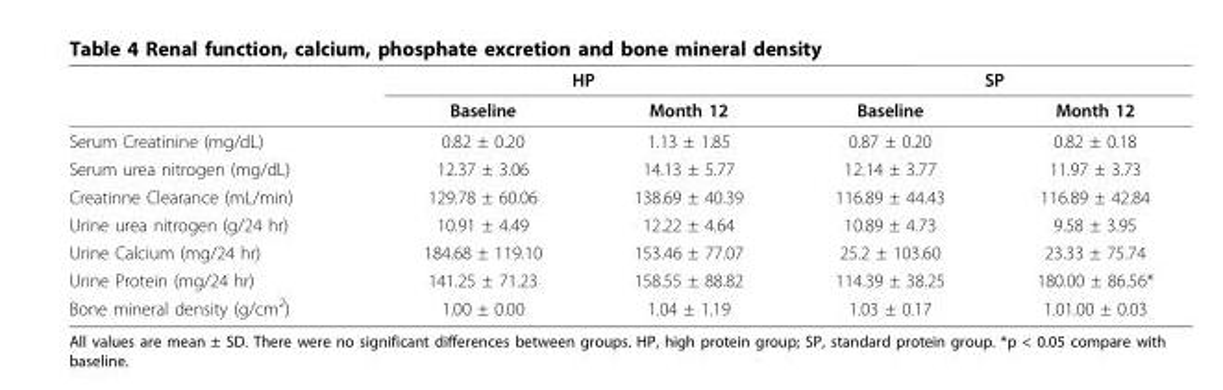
<table><thead><tr><td rowspan="2"></td><td colspan="2">HP</td><td colspan="2">SP</td></tr><tr><td>Baseline</td><td>Month 12</td><td>Baseline</td><td>Month 12</td></tr></thead><tbody><tr><td>Serum Creatinine (mg/dL)</td><td>0.82 ± 0.20</td><td>1.13 ± 1.85</td><td>0.87 ± 0.20</td><td>0.82 ± 0.18</td></tr><tr><td>Serum urea nitrogen (mg/dL)</td><td>12.37 ± 3.06</td><td>14.13 ± 5.77</td><td>12.14 ± 3.77</td><td>11.97 ± 3.73</td></tr><tr><td>Creatinne Clearance (mL/min)</td><td>129.78 ± 60.06</td><td>138.69 ± 40.39</td><td>116.89 ± 44.43</td><td>116.89 ± 42.84</td></tr><tr><td>Urine urea nitrogen (g/24 hr)</td><td>10.91 ± 4.49</td><td>12.22 ± 4.64</td><td>10.89 ± 4.73</td><td>9.58 ± 3.95</td></tr><tr><td>Urine Calcium (mg/24 hr)</td><td>184.68 ± 119.10</td><td>153.46 ± 77.07</td><td>25.2 ± 103.60</td><td>23.33 ± 75.74</td></tr><tr><td>Urine Protein (mg/24 hr)</td><td>141.25 ± 71.23</td><td>158.55 ± 88.82</td><td>114.39 ± 38.25</td><td>180.00 ± 86.56*</td></tr><tr><td>Bone mineral density (g/cm<sup>2</sup>)</td><td>1.00 ± 0.00</td><td>1.04 ± 1.19</td><td>1.03 ± 0.17</td><td>1.01.00 ± 0.03</td></tr></tbody></table>